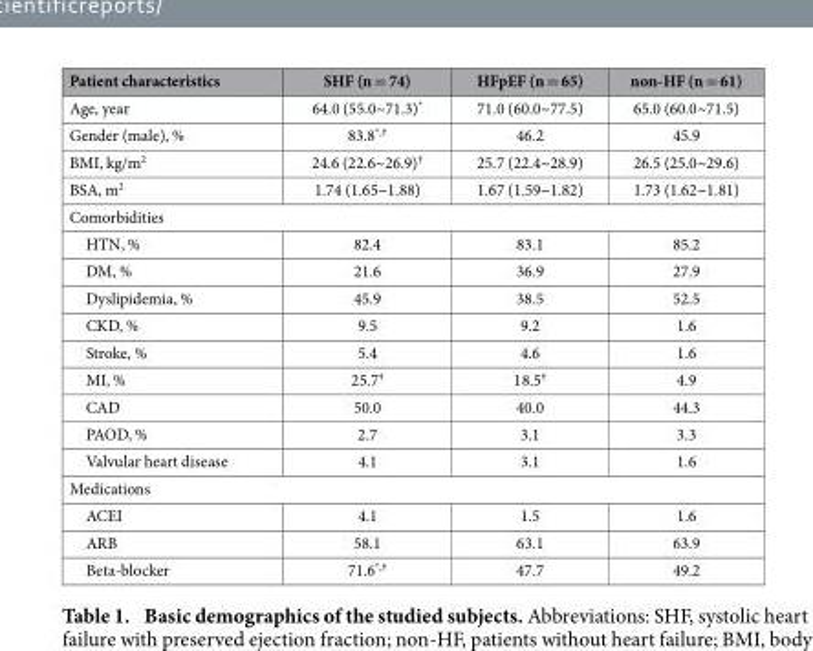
<table><thead><tr><td>Patient characteristics</td><td>SHF (n = 74)</td><td>HFpEF (n = 65)</td><td>non-HF (n = 61)</td></tr></thead><tbody><tr><td>Age, year</td><td>64.0 (55.0~71.3)*</td><td>71.0 (60.0~77.5)</td><td>65.0 (60.0~71.5)</td></tr><tr><td>Gender (male), %</td><td>83.8*,†</td><td>46.2</td><td>45.9</td></tr><tr><td>BMI, kg/m<sup>2</sup></td><td>24.6 (22.6~26.9)†</td><td>25.7 (22.4~28.9)</td><td>26.5 (25.0~29.6)</td></tr><tr><td>BSA, m<sup>2</sup></td><td>1.74 (1.65~1.88)</td><td>1.67 (1.59~1.82)</td><td>1.73 (1.62~1.81)</td></tr><tr><td colspan="4">Comorbidities</td></tr><tr><td>HTN, %</td><td>82.4</td><td>83.1</td><td>85.2</td></tr><tr><td>DM, %</td><td>21.6</td><td>36.9</td><td>27.9</td></tr><tr><td>Dyslipidemia, %</td><td>45.9</td><td>38.5</td><td>52.5</td></tr><tr><td>CKD, %</td><td>9.5</td><td>9.2</td><td>1.6</td></tr><tr><td>Stroke, %</td><td>5.4</td><td>4.6</td><td>1.6</td></tr><tr><td>MI, %</td><td>25.7†</td><td>18.5†</td><td>4.9</td></tr><tr><td>CAD</td><td>50.0</td><td>40.0</td><td>44.3</td></tr><tr><td>PAOD, %</td><td>2.7</td><td>3.1</td><td>3.3</td></tr><tr><td>Valvular heart disease</td><td>4.1</td><td>3.1</td><td>1.6</td></tr><tr><td colspan="4">Medications</td></tr><tr><td>ACEI</td><td>4.1</td><td>1.5</td><td>1.6</td></tr><tr><td>ARB</td><td>58.1</td><td>63.1</td><td>63.9</td></tr><tr><td>Beta-blocker</td><td>71.6*,†</td><td>47.7</td><td>49.2</td></tr></tbody></table>